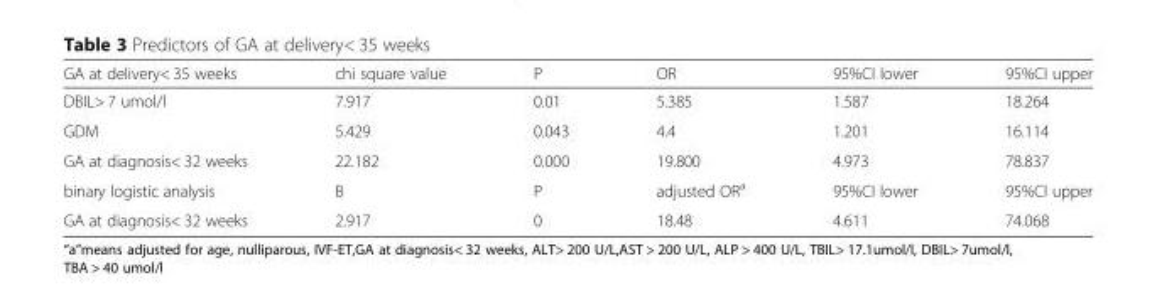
<table><thead><tr><td>GA at delivery&lt; 35 weeks</td><td>chi square value</td><td>P</td><td>OR</td><td>95%CI lower</td><td>95%CI upper</td></tr></thead><tbody><tr><td>DBIL&gt; 7 umol/l</td><td>7.917</td><td>0.01</td><td>5.385</td><td>1.587</td><td>18.264</td></tr><tr><td>GDM</td><td>5.429</td><td>0.043</td><td>4.4</td><td>1.201</td><td>16.114</td></tr><tr><td>GA at diagnosis&lt; 32 weeks</td><td>22.182</td><td>0.000</td><td>19.800</td><td>4.973</td><td>78.837</td></tr><tr><td>binary logistic analysis</td><td>B</td><td>P</td><td>adjusted OR<sup>a</sup></td><td>95%CI lower</td><td>95%CI upper</td></tr><tr><td>GA at diagnosis&lt; 32 weeks</td><td>2.917</td><td>0</td><td>18.48</td><td>4.611</td><td>74.068</td></tr></tbody></table>